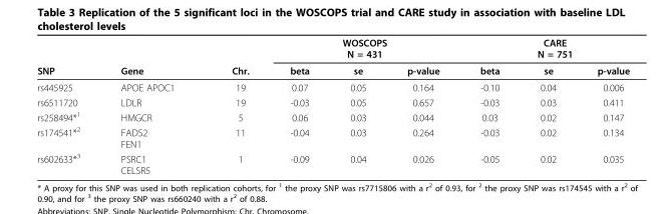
<table><thead><tr><td rowspan="2">SNP</td><td rowspan="2">Gene</td><td rowspan="2">Chr.</td><td colspan="3">WOSCOPS N = 431</td><td colspan="3">CARE N = 751</td></tr><tr><td>beta</td><td>se</td><td>p-value</td><td>beta</td><td>se</td><td>p-value</td></tr></thead><tbody><tr><td>rs445925</td><td>APOE APOC1</td><td>19</td><td>0.07</td><td>0.05</td><td>0.164</td><td>-0.10</td><td>0.04</td><td>0.006</td></tr><tr><td>rs6511720</td><td>LDLR</td><td>19</td><td>-0.03</td><td>0.05</td><td>0.657</td><td>-0.03</td><td>0.03</td><td>0.411</td></tr><tr><td>rs258494*<sup>1</sup></td><td>HMGCR</td><td>5</td><td>0.06</td><td>0.03</td><td>0.044</td><td>0.03</td><td>0.02</td><td>0.147</td></tr><tr><td>rs174541*<sup>2</sup></td><td>FADS2 FEN1</td><td>11</td><td>-0.04</td><td>0.03</td><td>0.264</td><td>-0.03</td><td>0.02</td><td>0.134</td></tr><tr><td>rs602633*<sup>3</sup></td><td>PSRC1 CELSR5</td><td>1</td><td>-0.09</td><td>0.04</td><td>0.026</td><td>-0.05</td><td>0.02</td><td>0.035</td></tr></tbody></table>